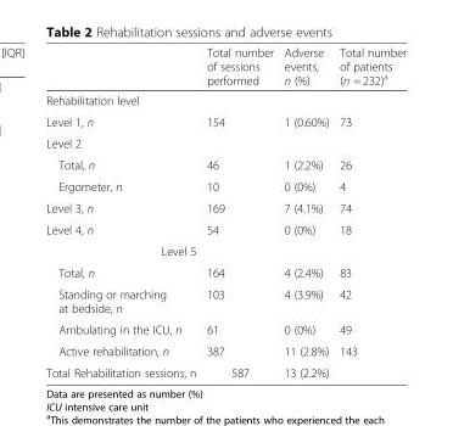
<table><thead><tr><td></td><td>Total number of sessions performed</td><td>Adverse events, n (%)</td><td>Total number of patients (n = 232)<sup>a</sup></td></tr></thead><tbody><tr><td colspan="4">Rehabilitation level</td></tr><tr><td>Level 1, n</td><td>154</td><td>1 (0.60%)</td><td>73</td></tr><tr><td colspan="4">Level 2</td></tr><tr><td>Total, n</td><td>46</td><td>1 (2.2%)</td><td>26</td></tr><tr><td>Ergometer, n</td><td>10</td><td>0 (0%)</td><td>4</td></tr><tr><td>Level 3, n</td><td>169</td><td>7 (4.1%)</td><td>74</td></tr><tr><td>Level 4, n</td><td>54</td><td>0 (0%)</td><td>18</td></tr><tr><td colspan="4">Level 5</td></tr><tr><td>Total, n</td><td>164</td><td>4 (2.4%)</td><td>83</td></tr><tr><td>Standing or marching at bedside, n</td><td>103</td><td>4 (3.9%)</td><td>42</td></tr><tr><td>Ambulating in the ICU, n</td><td>61</td><td>0 (0%)</td><td>49</td></tr><tr><td>Active rehabilitation, n</td><td>387</td><td>11 (2.8%)</td><td>143</td></tr><tr><td>Total Rehabilitation sessions, n</td><td>587</td><td>13 (2.2%)</td><td></td></tr></tbody></table>